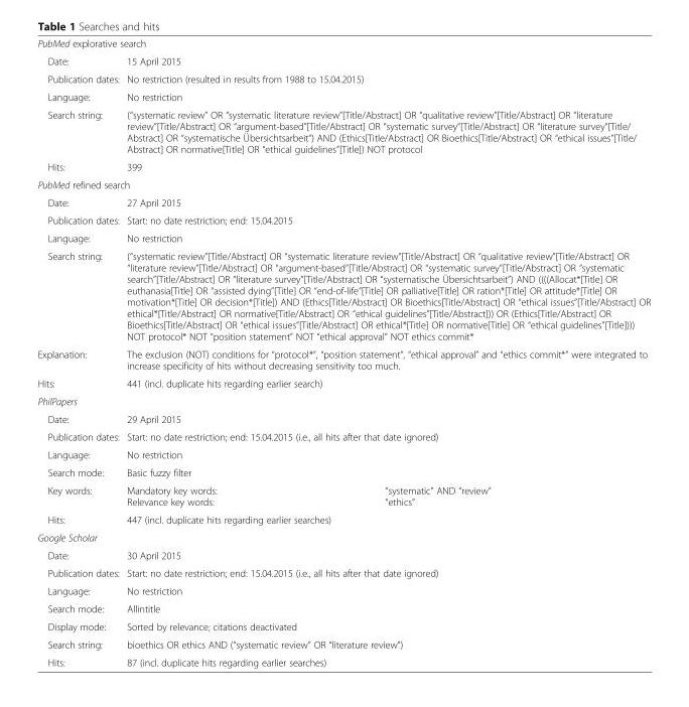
<table><tbody><tr><td colspan="3">PubMed explorative search</td></tr><tr><td>Date:</td><td colspan="2">15 April 2015</td></tr><tr><td>Publication dates:</td><td colspan="2">No restriction (resulted in results from 1988 to 15.04.2015)</td></tr><tr><td>Language:</td><td colspan="2">No restriction</td></tr><tr><td>Search string:</td><td colspan="2">(“systematic review” OR “systematic literature review”[Title/Abstract] OR “qualitative review”[Title/Abstract] OR “literature review”[Title/Abstract] OR “argument-based”[Title/Abstract] OR “systematic survey“[Title/Abstract] OR “literature survey”[Title/ Abstract] OR “systematische Übersichtsarbeit“) AND (Ethics[Title/Abstract] OR Bioethics[Title/Abstract] OR “ethical issues”[Title/ Abstract] OR normative[Title] OR “ethical guidelines”[Title]) NOT protocol</td></tr><tr><td>Hits:</td><td colspan="2">399</td></tr><tr><td colspan="3">PubMed refined search</td></tr><tr><td>Date:</td><td colspan="2">27 April 2015</td></tr><tr><td>Publication dates:</td><td colspan="2">Start: no date restriction; end: 15.04.2015</td></tr><tr><td>Language:</td><td colspan="2">No restriction</td></tr><tr><td>Search string:</td><td colspan="2">(“systematic review”[Title/Abstract] OR “systematic literature review”[Title/Abstract] OR “qualitative review”[Title/Abstract] OR “literature review”[Title/Abstract] OR “argument-based”[Title/Abstract] OR “systematic survey”[Title/Abstract] OR “systematic search”[Title/Abstract] OR “literature survey”[Title/Abstract] OR “systematische Übersichtsarbeit”) AND ((((Allocat*[Title] OR euthanasia[Title] OR “assisted dying”[Title] OR “end-of-life”[Title] OR palliative[Title] OR ration*[Title] OR attitude*[Title] OR motivation*[Title] OR decision*[Title]) AND (Ethics[Title/Abstract] OR Bioethics[Title/Abstract] OR “ethical issues”[Title/Abstract] OR ethical*[Title/Abstract] OR normative[Title/Abstract] OR “ethical guidelines”[Title/Abstract])) OR (Ethics[Title/Abstract] OR Bioethics[Title/Abstract] OR “ethical issues”[Title/Abstract] OR ethical*[Title] OR normative[Title] OR “ethical guidelines”[Title]))) NOT protocol* NOT “position statement” NOT “ethical approval” NOT ethics commit*</td></tr><tr><td>Explanation:</td><td colspan="2">The exclusion (NOT) conditions for “protocol*”, “position statement”, “ethical approval” and “ethics commit*” were integrated to increase specificity of hits without decreasing sensitivity too much.</td></tr><tr><td>Hits:</td><td colspan="2">441 (incl. duplicate hits regarding earlier search)</td></tr><tr><td colspan="3">PhilPapers</td></tr><tr><td>Date:</td><td colspan="2">29 April 2015</td></tr><tr><td>Publication dates:</td><td colspan="2">Start: no date restriction; end: 15.04.2015 (i.e., all hits after that date ignored)</td></tr><tr><td>Language:</td><td colspan="2">No restriction</td></tr><tr><td>Search mode:</td><td colspan="2">Basic fuzzy filter</td></tr><tr><td>Key words:</td><td>Mandatory key words: Relevance key words:</td><td>“systematic” AND “review” “ethics”</td></tr><tr><td>Hits:</td><td colspan="2">447 (incl. duplicate hits regarding earlier searches)</td></tr><tr><td colspan="3">Google Scholar</td></tr><tr><td>Date:</td><td colspan="2">30 April 2015</td></tr><tr><td>Publication dates:</td><td colspan="2">Start: no date restriction; end: 15.04.2015 (i.e., all hits after that date ignored)</td></tr><tr><td>Language:</td><td colspan="2">No restriction</td></tr><tr><td>Search mode:</td><td colspan="2">Allintitle</td></tr><tr><td>Display mode:</td><td colspan="2">Sorted by relevance; citations deactivated</td></tr><tr><td>Search string:</td><td colspan="2">bioethics OR ethics AND (“systematic review” OR “literature review”)</td></tr><tr><td>Hits:</td><td colspan="2">87 (incl. duplicate hits regarding earlier searches)</td></tr></tbody></table>